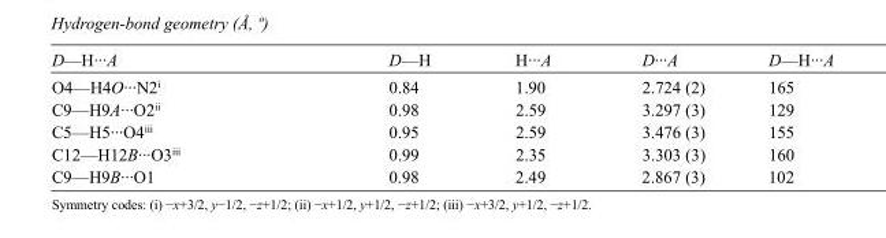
<table><tbody><tr><td>D—H···A</td><td>D—H</td><td>H···A</td><td>D···A</td><td>D—H···A</td></tr><tr><td>O4—H4O···N2<sup>i</sup></td><td>0.84</td><td>1.90</td><td>2.724 (2)</td><td>165</td></tr><tr><td>C9—H9A···O2<sup>ii</sup></td><td>0.98</td><td>2.59</td><td>3.297 (3)</td><td>129</td></tr><tr><td>C5—H5···O4<sup>iii</sup></td><td>0.95</td><td>2.59</td><td>3.476 (3)</td><td>155</td></tr><tr><td>C12—H12B···O3<sup>iii</sup></td><td>0.99</td><td>2.35</td><td>3.303 (3)</td><td>160</td></tr><tr><td>C9—H9B···O1</td><td>0.98</td><td>2.49</td><td>2.867 (3)</td><td>102</td></tr></tbody></table>